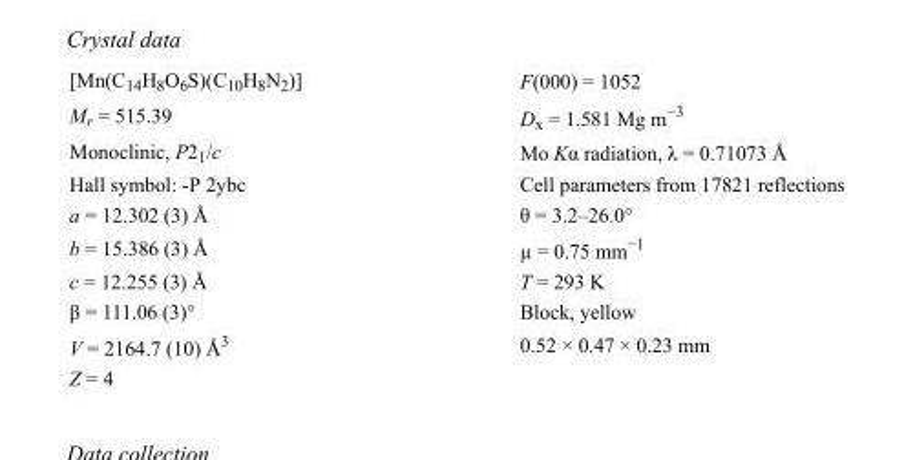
<table><tbody><tr><td>[Mn(C<sub>14</sub>H<sub>8</sub>O<sub>6</sub>S)(C<sub>10</sub>H<sub>8</sub>N<sub>2</sub>)]</td><td>F(000) = 1052</td></tr><tr><td>M<sub>r</sub> = 515.39</td><td>D<sub>x</sub> = 1.581 Mg m<sup>−3</sup></td></tr><tr><td>Monoclinic, P2<sub>1</sub>/c</td><td>Mo Kα radiation, λ = 0.71073 Å</td></tr><tr><td>Hall symbol: -P 2ybc</td><td>Cell parameters from 17821 reflections</td></tr><tr><td>a = 12.302 (3) Å</td><td>θ = 3.2–26.0°</td></tr><tr><td>b = 15.386 (3) Å</td><td>µ = 0.75 mm<sup>−1</sup></td></tr><tr><td>c = 12.255 (3) Å</td><td>T = 293 K</td></tr><tr><td>β = 111.06 (3)°</td><td>Block, yellow</td></tr><tr><td>V = 2164.7 (10) Å<sup>3</sup></td><td>0.52 × 0.47 × 0.23 mm</td></tr><tr><td>Z = 4</td><td></td></tr></tbody></table>